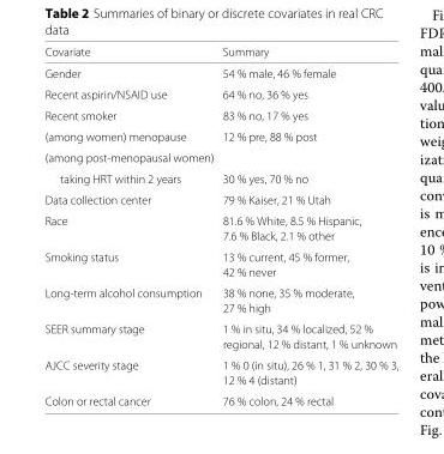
<table><thead><tr><td>Covariate</td><td>Summary</td></tr></thead><tbody><tr><td>Gender</td><td>54 % male, 46 % female</td></tr><tr><td>Recent aspirin/NSAID use</td><td>64 % no, 36 % yes</td></tr><tr><td>Recent smoker</td><td>83 % no, 17 % yes</td></tr><tr><td>(among women) menopause</td><td>12 % pre, 88 % post</td></tr><tr><td colspan="2">(among post-menopausal women)</td></tr><tr><td>taking HRT within 2 years</td><td>30 % yes, 70 % no</td></tr><tr><td>Data collection center</td><td>79 % Kaiser, 21 % Utah</td></tr><tr><td rowspan="2">Race</td><td>81.6 % White, 8.5 % Hispanic,</td></tr><tr><td>7.6 % Black, 2.1 % other</td></tr><tr><td rowspan="2">Smoking status</td><td>13 % current, 45 % former,</td></tr><tr><td>42 % never</td></tr><tr><td rowspan="2">Long-term alcohol consumption</td><td>38 % none, 35 % moderate,</td></tr><tr><td>27 % high</td></tr><tr><td rowspan="2">SEER summary stage</td><td>1 % in situ, 34 % localized, 52 %</td></tr><tr><td>regional, 12 % distant, 1 % unknown</td></tr><tr><td rowspan="2">AJCC severity stage</td><td>1 % 0 (in situ), 26 % 1, 31 % 2, 30 % 3,</td></tr><tr><td>12 % 4 (distant)</td></tr><tr><td>Colon or rectal cancer</td><td>76 % colon, 24 % rectal</td></tr></tbody></table>